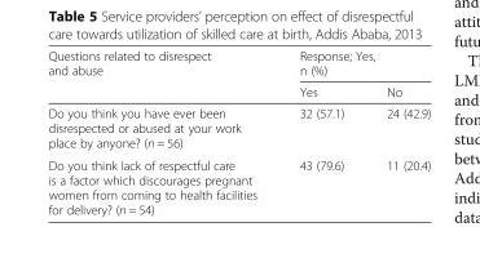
<table><thead><tr><td rowspan="2">Questions related to disrespect and abuse</td><td colspan="2">Response; Yes, n (%)</td></tr><tr><td>Yes</td><td>No</td></tr></thead><tbody><tr><td>Do you think you have ever been disrespected or abused at your work place by anyone? (n = 56)</td><td>32 (57.1)</td><td>24 (42.9)</td></tr><tr><td>Do you think lack of respectful care is a factor which discourages pregnant women from coming to health facilities for delivery? (n = 54)</td><td>43 (79.6)</td><td>11 (20.4)</td></tr></tbody></table>